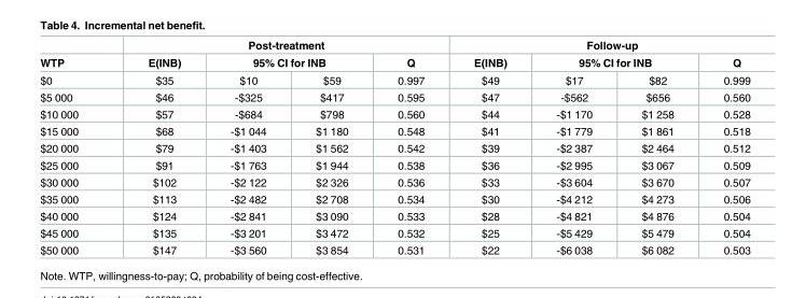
<table><thead><tr><td rowspan="3">WTP $0</td><td colspan="4">Post-treatment</td><td colspan="4">Follow-up</td></tr><tr><td rowspan="2">E(INB) $35</td><td colspan="2">95% CI for INB</td><td rowspan="2">Q 0.997</td><td rowspan="2">E(INB) $49</td><td colspan="2">95% CI for INB</td><td rowspan="2">Q 0.999</td></tr><tr><td>$10</td><td>$59</td><td>$17</td><td>$82</td></tr></thead><tbody><tr><td>$5 000</td><td>$46</td><td>-$325</td><td>$417</td><td>0.595</td><td>$47</td><td>-$562</td><td>$656</td><td>0.560</td></tr><tr><td>$10 000</td><td>$57</td><td>-$684</td><td>$798</td><td>0.560</td><td>$44</td><td>-$1 170</td><td>$1 258</td><td>0.528</td></tr><tr><td>$15 000</td><td>$68</td><td>-$1 044</td><td>$1 180</td><td>0.548</td><td>$41</td><td>-$1 779</td><td>$1 861</td><td>0.518</td></tr><tr><td>$20 000</td><td>$79</td><td>-$1 403</td><td>$1 562</td><td>0.542</td><td>$39</td><td>-$2 387</td><td>$2 464</td><td>0.512</td></tr><tr><td>$25 000</td><td>$91</td><td>-$1 763</td><td>$1 944</td><td>0.538</td><td>$36</td><td>-$2 995</td><td>$3 067</td><td>0.509</td></tr><tr><td>$30 000</td><td>$102</td><td>-$2 122</td><td>$2 326</td><td>0.536</td><td>$33</td><td>-$3 604</td><td>$3 670</td><td>0.507</td></tr><tr><td>$35 000</td><td>$113</td><td>-$2 482</td><td>$2 708</td><td>0.534</td><td>$30</td><td>-$4 212</td><td>$4 273</td><td>0.506</td></tr><tr><td>$40 000</td><td>$124</td><td>-$2 841</td><td>$3 090</td><td>0.533</td><td>$28</td><td>-$4 821</td><td>$4 876</td><td>0.504</td></tr><tr><td>$45 000</td><td>$135</td><td>-$3 201</td><td>$3 472</td><td>0.532</td><td>$25</td><td>-$5 429</td><td>$5 479</td><td>0.504</td></tr><tr><td>$50 000</td><td>$147</td><td>-$3 560</td><td>$3 854</td><td>0.531</td><td>$22</td><td>-$6 038</td><td>$6 082</td><td>0.503</td></tr></tbody></table>